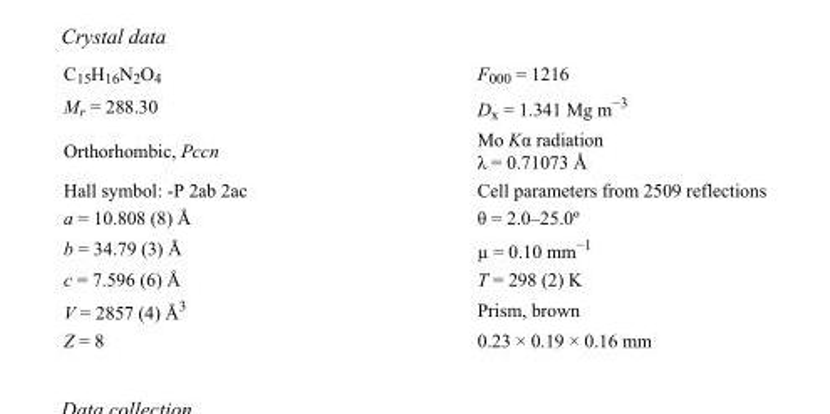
<table><tbody><tr><td>C<sub>15</sub>H<sub>16</sub>N<sub>2</sub>O<sub>4</sub></td><td>F000 = 1216</td></tr><tr><td>M<sub>r</sub> = 288.30</td><td>D<sub>x</sub> = 1.341 Mg m<sup>−3</sup></td></tr><tr><td>Orthorhombic, Pccn</td><td>Mo Kα radiation λ = 0.71073 Å</td></tr><tr><td>Hall symbol: -P 2ab 2ac</td><td>Cell parameters from 2509 reflections</td></tr><tr><td>a = 10.808 (8) Å</td><td>θ = 2.0–25.0º</td></tr><tr><td>b = 34.79 (3) Å</td><td>µ = 0.10 mm<sup>−1</sup></td></tr><tr><td>c = 7.596 (6) Å</td><td>T = 298 (2) K</td></tr><tr><td>V = 2857 (4) Å<sup>3</sup></td><td>Prism, brown</td></tr><tr><td>Z = 8</td><td>0.23 × 0.19 × 0.16 mm</td></tr></tbody></table>